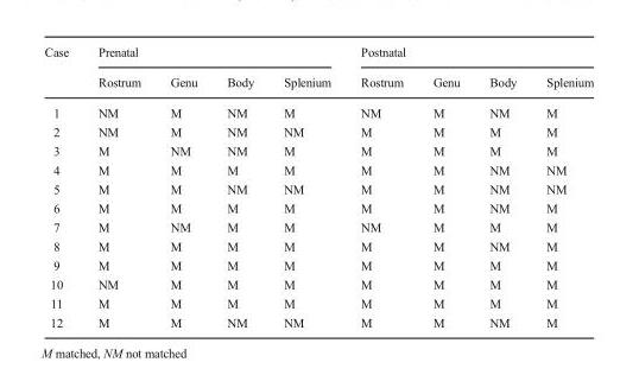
<table><thead><tr><td rowspan="2">Case</td><td colspan="4">Prenatal</td><td colspan="4">Postnatal</td></tr><tr><td>Rostrum</td><td>Genu</td><td>Body</td><td>Splenium</td><td>Rostrum</td><td>Genu</td><td>Body</td><td>Splenium</td></tr></thead><tbody><tr><td>1</td><td>NM</td><td>M</td><td>NM</td><td>M</td><td>NM</td><td>M</td><td>NM</td><td>M</td></tr><tr><td>2</td><td>NM</td><td>M</td><td>NM</td><td>NM</td><td>M</td><td>M</td><td>M</td><td>M</td></tr><tr><td>3</td><td>M</td><td>NM</td><td>NM</td><td>M</td><td>M</td><td>M</td><td>M</td><td>M</td></tr><tr><td>4</td><td>M</td><td>M</td><td>M</td><td>M</td><td>M</td><td>M</td><td>NM</td><td>NM</td></tr><tr><td>5</td><td>M</td><td>M</td><td>NM</td><td>NM</td><td>M</td><td>M</td><td>NM</td><td>NM</td></tr><tr><td>6</td><td>M</td><td>M</td><td>M</td><td>M</td><td>M</td><td>M</td><td>NM</td><td>M</td></tr><tr><td>7</td><td>M</td><td>NM</td><td>M</td><td>M</td><td>NM</td><td>M</td><td>M</td><td>M</td></tr><tr><td>8</td><td>M</td><td>M</td><td>M</td><td>M</td><td>M</td><td>M</td><td>NM</td><td>M</td></tr><tr><td>9</td><td>M</td><td>M</td><td>M</td><td>M</td><td>M</td><td>M</td><td>M</td><td>M</td></tr><tr><td>10</td><td>NM</td><td>M</td><td>M</td><td>M</td><td>M</td><td>M</td><td>M</td><td>M</td></tr><tr><td>11</td><td>M</td><td>M</td><td>M</td><td>M</td><td>M</td><td>M</td><td>M</td><td>M</td></tr><tr><td>12</td><td>M</td><td>M</td><td>NM</td><td>NM</td><td>M</td><td>M</td><td>NM</td><td>M</td></tr></tbody></table>